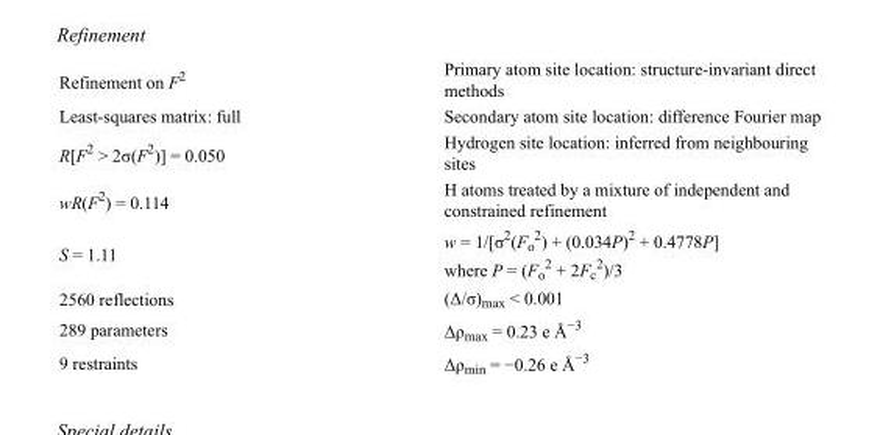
<table><tbody><tr><td>Refinement on F<sup>2</sup></td><td>Primary atom site location: structure-invariant direct methods</td></tr><tr><td>Least-squares matrix: full</td><td>Secondary atom site location: difference Fourier map</td></tr><tr><td>R[F<sup>2</sup> &gt; 2σ(F<sup>2</sup>)] = 0.050</td><td>Hydrogen site location: inferred from neighbouring sites</td></tr><tr><td>wR(F<sup>2</sup>) = 0.114</td><td>H atoms treated by a mixture of independent and constrained refinement</td></tr><tr><td>S = 1.11</td><td>w = 1/[σ<sup>2</sup>(F<sub>o</sub> <sup>2</sup>) + (0.034P)<sup>2</sup> + 0.4778P] where P = (F<sub>o</sub> <sup>2</sup> + 2F<sub>c</sub> <sup>2</sup>)/3</td></tr><tr><td>2560 reflections</td><td>(Δ/σ)<sub>max</sub> &lt; 0.001</td></tr><tr><td>289 parameters</td><td>Δρ<sub>max</sub> = 0.23 e Å<sup>−3</sup></td></tr><tr><td>9 restraints</td><td>Δρ<sub>min</sub> = −0.26 e Å<sup>−3</sup></td></tr></tbody></table>